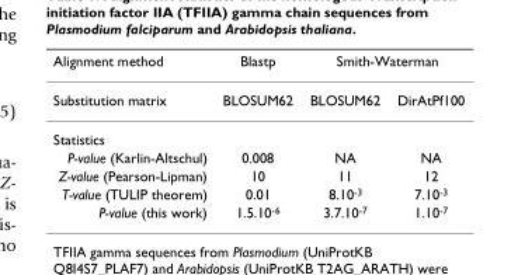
<table><thead><tr><td rowspan="2">Alignment method Substitution matrix</td><td rowspan="2">Blastp BLOSUM62</td><td colspan="2">Smith-Waterman</td></tr><tr><td>BLOSUM62</td><td>DirAtPf100</td></tr></thead><tbody><tr><td colspan="4">Statistics</td></tr><tr><td>P-value (Karlin-Altschul)</td><td>0.008</td><td>NA</td><td>NA</td></tr><tr><td>Z-value (Pearson-Lipman)</td><td>10</td><td>11</td><td>12</td></tr><tr><td>T-value (TULIP theorem)</td><td>0.01</td><td>8.10<sup>-3</sup></td><td>7.10<sup>-3</sup></td></tr><tr><td>P-value (this work)</td><td>1.5.10<sup>-6</sup></td><td>3.7.10<sup>-7</sup></td><td>1.10<sup>-7</sup></td></tr></tbody></table>